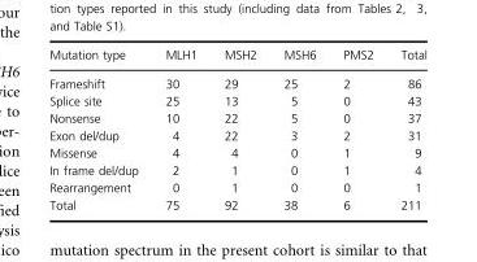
<table><thead><tr><td>Mutation type</td><td>MLH1</td><td>MSH2</td><td>MSH6</td><td>PMS2</td><td>Total</td></tr></thead><tbody><tr><td>Frameshift</td><td>30</td><td>29</td><td>25</td><td>2</td><td>86</td></tr><tr><td>Splice site</td><td>25</td><td>13</td><td>5</td><td>0</td><td>43</td></tr><tr><td>Nonsense</td><td>10</td><td>22</td><td>5</td><td>0</td><td>37</td></tr><tr><td>Exon del/dup</td><td>4</td><td>22</td><td>3</td><td>2</td><td>31</td></tr><tr><td>Missense</td><td>4</td><td>4</td><td>0</td><td>1</td><td>9</td></tr><tr><td>In frame del/dup</td><td>2</td><td>1</td><td>0</td><td>1</td><td>4</td></tr><tr><td>Rearrangement</td><td>0</td><td>1</td><td>0</td><td>0</td><td>1</td></tr><tr><td>Total</td><td>75</td><td>92</td><td>38</td><td>6</td><td>211</td></tr></tbody></table>